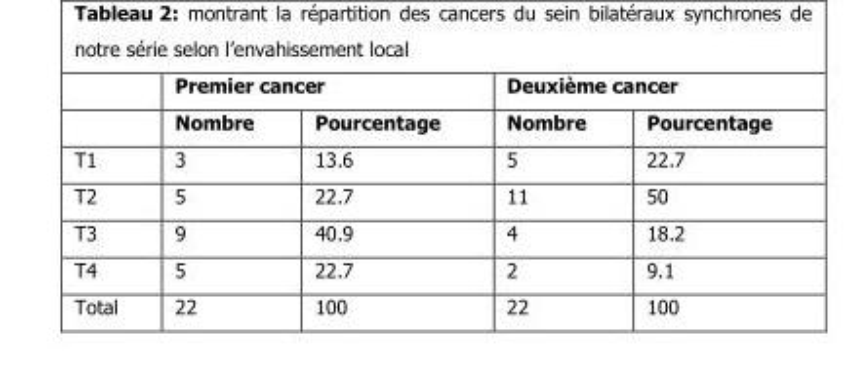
<table><thead><tr><td rowspan="2"></td><td colspan="2">Premier cancer</td><td colspan="2">Deuxième cancer</td></tr><tr><td>Nombre</td><td>Pourcentage</td><td>Nombre</td><td>Pourcentage</td></tr></thead><tbody><tr><td>T1</td><td>3</td><td>13.6</td><td>5</td><td>22.7</td></tr><tr><td>T2</td><td>5</td><td>22.7</td><td>11</td><td>50</td></tr><tr><td>T3</td><td>9</td><td>40.9</td><td>4</td><td>18.2</td></tr><tr><td>T4</td><td>5</td><td>22.7</td><td>2</td><td>9.1</td></tr><tr><td>Total</td><td>22</td><td>100</td><td>22</td><td>100</td></tr></tbody></table>